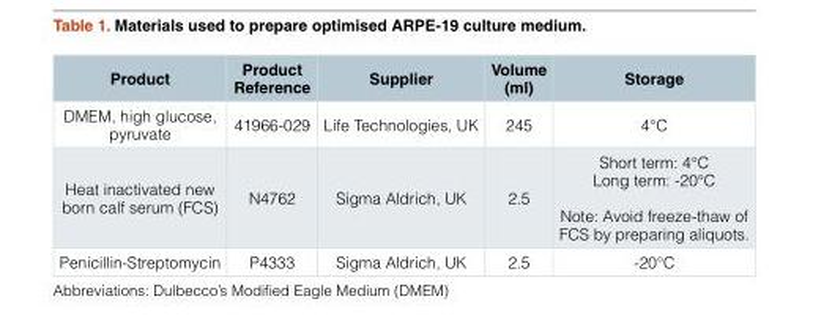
<table><thead><tr><td>Product</td><td>Product Reference</td><td>Supplier</td><td>Volume (ml)</td><td>Storage</td></tr></thead><tbody><tr><td>DMEM, high glucose, pyruvate</td><td>41966-029</td><td>Life Technologies, UK</td><td>245</td><td>4°C</td></tr><tr><td>Heat inactivated new born calf serum (FCS)</td><td>N4762</td><td>Sigma Aldrich, UK</td><td>2.5</td><td>Short term: 4°C Long term: -20°C Note: Avoid freeze-thaw of FCS by preparing aliquots.</td></tr><tr><td>Penicillin-Streptomycin</td><td>P4333</td><td>Sigma Aldrich, UK</td><td>2.5</td><td>-20°C</td></tr></tbody></table>